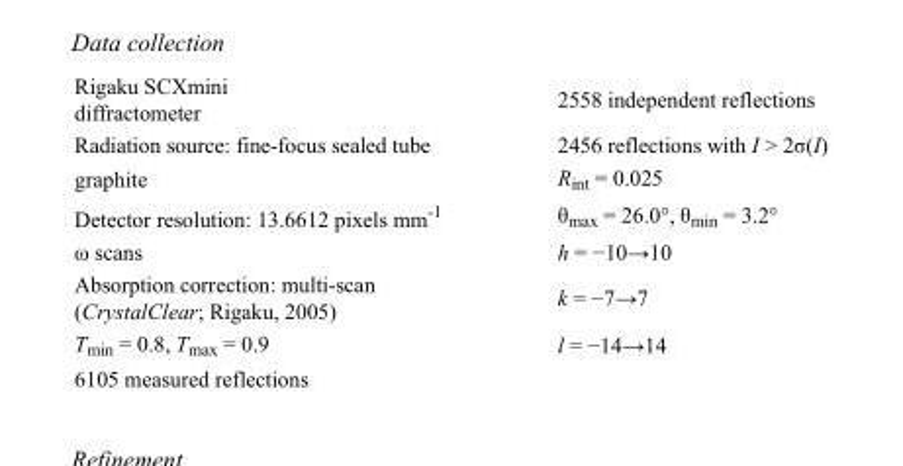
<table><tbody><tr><td>Rigaku SCXmini diffractometer</td><td>2558 independent reflections</td></tr><tr><td>Radiation source: fine-focus sealed tube</td><td>2456 reflections with I &gt; 2σ(I)</td></tr><tr><td>graphite</td><td>R<sub>int</sub> = 0.025</td></tr><tr><td>Detector resolution: 13.6612 pixels mm<sup>-1</sup></td><td>θ<sub>max</sub> = 26.0°, θ<sub>min</sub> = 3.2°</td></tr><tr><td>ω scans</td><td>h = −10→10</td></tr><tr><td>Absorption correction: multi-scan (CrystalClear; Rigaku, 2005)</td><td>k = −7→7</td></tr><tr><td>T<sub>min</sub> = 0.8, T<sub>max</sub> = 0.9</td><td>l = −14→14</td></tr><tr><td>6105 measured reflections</td><td></td></tr></tbody></table>